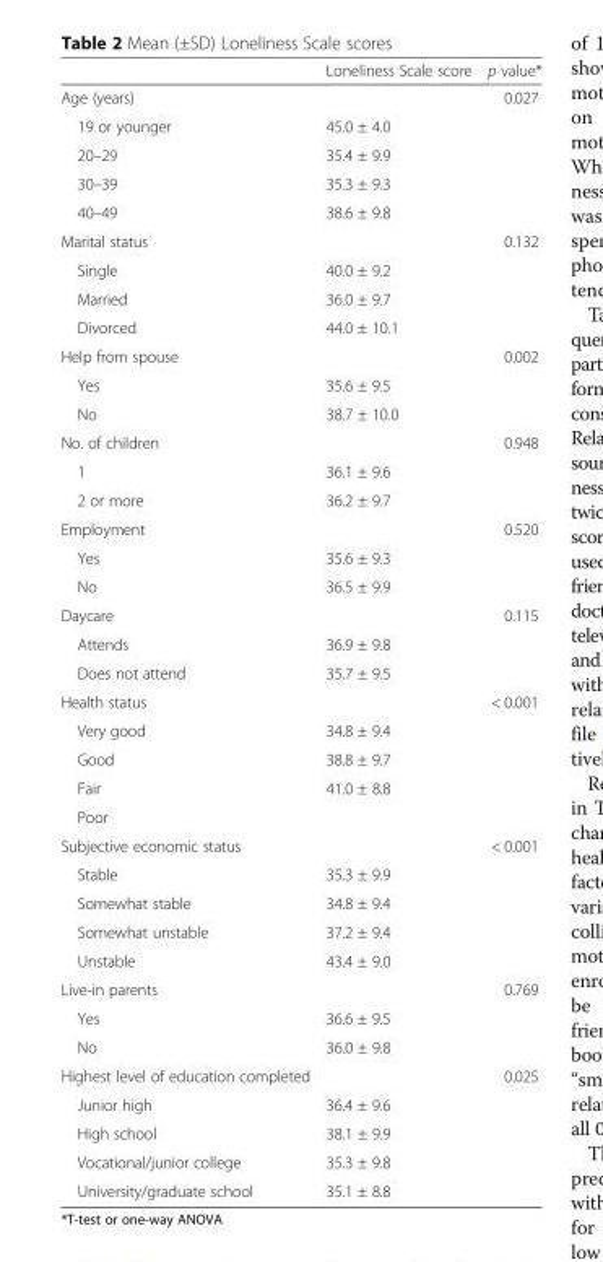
<table><thead><tr><td></td><td>Loneliness Scale score</td><td>p value*</td></tr></thead><tbody><tr><td>Age (years)</td><td></td><td>0.027</td></tr><tr><td>19 or younger</td><td>45.0 ± 4.0</td><td></td></tr><tr><td>20–29</td><td>35.4 ± 9.9</td><td></td></tr><tr><td>30–39</td><td>35.3 ± 9.3</td><td></td></tr><tr><td>40–49</td><td>38.6 ± 9.8</td><td></td></tr><tr><td>Marital status</td><td></td><td>0.132</td></tr><tr><td>Single</td><td>40.0 ± 9.2</td><td></td></tr><tr><td>Married</td><td>36.0 ± 9.7</td><td></td></tr><tr><td>Divorced</td><td>44.0 ± 10.1</td><td></td></tr><tr><td>Help from spouse</td><td></td><td>0.002</td></tr><tr><td>Yes</td><td>35.6 ± 9.5</td><td></td></tr><tr><td>No</td><td>38.7 ± 10.0</td><td></td></tr><tr><td>No. of children</td><td></td><td>0.948</td></tr><tr><td>1</td><td>36.1 ± 9.6</td><td></td></tr><tr><td>2 or more</td><td>36.2 ± 9.7</td><td></td></tr><tr><td>Employment</td><td></td><td>0.520</td></tr><tr><td>Yes</td><td>35.6 ± 9.3</td><td></td></tr><tr><td>No</td><td>36.5 ± 9.9</td><td></td></tr><tr><td>Daycare</td><td></td><td>0.115</td></tr><tr><td>Attends</td><td>36.9 ± 9.8</td><td></td></tr><tr><td>Does not attend</td><td>35.7 ± 9.5</td><td></td></tr><tr><td>Health status</td><td></td><td>&lt; 0.001</td></tr><tr><td>Very good</td><td>34.8 ± 9.4</td><td></td></tr><tr><td>Good</td><td>38.8 ± 9.7</td><td></td></tr><tr><td>Fair</td><td>41.0 ± 8.8</td><td></td></tr><tr><td colspan="3">Poor</td></tr><tr><td>Subjective economic status</td><td></td><td>&lt; 0.001</td></tr><tr><td>Stable</td><td>35.3 ± 9.9</td><td></td></tr><tr><td>Somewhat stable</td><td>34.8 ± 9.4</td><td></td></tr><tr><td>Somewhat unstable</td><td>37.2 ± 9.4</td><td></td></tr><tr><td>Unstable</td><td>43.4 ± 9.0</td><td></td></tr><tr><td>Live-in parents</td><td></td><td>0.769</td></tr><tr><td>Yes</td><td>36.6 ± 9.5</td><td></td></tr><tr><td>No</td><td>36.0 ± 9.8</td><td></td></tr><tr><td>Highest level of education completed</td><td></td><td>0.025</td></tr><tr><td>Junior high</td><td>36.4 ± 9.6</td><td></td></tr><tr><td>High school</td><td>38.1 ± 9.9</td><td></td></tr><tr><td>Vocational/junior college</td><td>35.3 ± 9.8</td><td></td></tr><tr><td>University/graduate school</td><td>35.1 ± 8.8</td><td></td></tr></tbody></table>